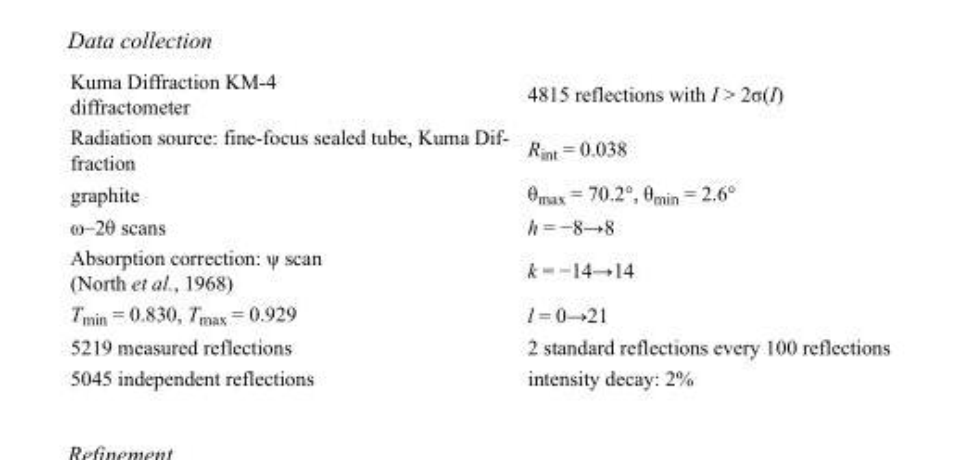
<table><tbody><tr><td>Kuma Diffraction KM-4 diffractometer</td><td>4815 reflections with I &gt; 2σ(I)</td></tr><tr><td>Radiation source: fine-focus sealed tube, Kuma Dif- fraction</td><td>R<sub>int</sub> = 0.038</td></tr><tr><td>graphite</td><td>θ<sub>max</sub> = 70.2°, θ<sub>min</sub> = 2.6°</td></tr><tr><td>ω–2θ scans</td><td>h = −8→8</td></tr><tr><td>Absorption correction: ψ scan (North et al., 1968)</td><td>k = −14→14</td></tr><tr><td>T<sub>min</sub> = 0.830, T<sub>max</sub> = 0.929</td><td>l = 0→21</td></tr><tr><td>5219 measured reflections</td><td>2 standard reflections every 100 reflections</td></tr><tr><td>5045 independent reflections</td><td>intensity decay: 2%</td></tr></tbody></table>